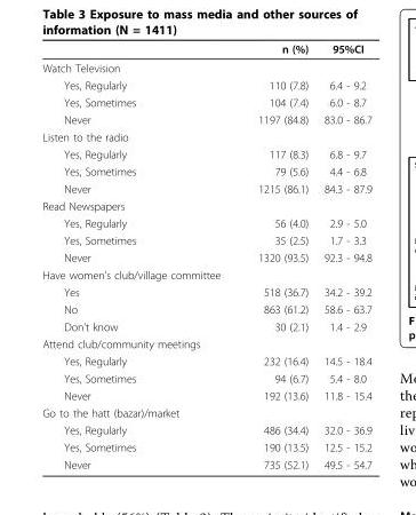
<table><thead><tr><td></td><td>n (%)</td><td>95%CI</td></tr></thead><tbody><tr><td colspan="3">Watch Television</td></tr><tr><td>Yes, Regularly</td><td>110 (7.8)</td><td>6.4 - 9.2</td></tr><tr><td>Yes, Sometimes</td><td>104 (7.4)</td><td>6.0 - 8.7</td></tr><tr><td>Never</td><td>1197 (84.8)</td><td>83.0 - 86.7</td></tr><tr><td colspan="3">Listen to the radio</td></tr><tr><td>Yes, Regularly</td><td>117 (8.3)</td><td>6.8 - 9.7</td></tr><tr><td>Yes, Sometimes</td><td>79 (5.6)</td><td>4.4 - 6.8</td></tr><tr><td>Never</td><td>1215 (86.1)</td><td>84.3 - 87.9</td></tr><tr><td colspan="3">Read Newspapers</td></tr><tr><td>Yes, Regularly</td><td>56 (4.0)</td><td>2.9 - 5.0</td></tr><tr><td>Yes, Sometimes</td><td>35 (2.5)</td><td>1.7 - 3.3</td></tr><tr><td>Never</td><td>1320 (93.5)</td><td>92.3 - 94.8</td></tr><tr><td colspan="3">Have women’s club/village committee</td></tr><tr><td>Yes</td><td>518 (36.7)</td><td>34.2 - 39.2</td></tr><tr><td>No</td><td>863 (61.2)</td><td>58.6 - 63.7</td></tr><tr><td>Don’t know</td><td>30 (2.1)</td><td>1.4 - 2.9</td></tr><tr><td colspan="3">Attend club/community meetings</td></tr><tr><td>Yes, Regularly</td><td>232 (16.4)</td><td>14.5 - 18.4</td></tr><tr><td>Yes, Sometimes</td><td>94 (6.7)</td><td>5.4 - 8.0</td></tr><tr><td>Never</td><td>192 (13.6)</td><td>11.8 - 15.4</td></tr><tr><td colspan="3">Go to the hatt (bazar)/market</td></tr><tr><td>Yes, Regularly</td><td>486 (34.4)</td><td>32.0 - 36.9</td></tr><tr><td>Yes, Sometimes</td><td>190 (13.5)</td><td>12.5 - 15.2</td></tr><tr><td>Never</td><td>735 (52.1)</td><td>49.5 - 54.7</td></tr></tbody></table>